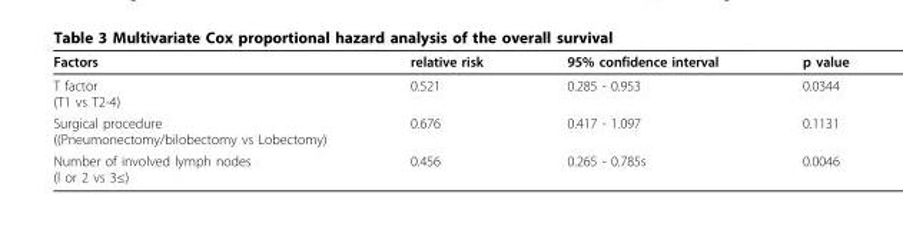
<table><thead><tr><td>Factors</td><td>relative risk</td><td>95% confidence interval</td><td>p value</td></tr></thead><tbody><tr><td>T factor (T1 vs T2-4)</td><td>0.521</td><td>0.285 - 0.953</td><td>0.0344</td></tr><tr><td>Surgical procedure ((Pneumonectomy/bilobectomy vs Lobectomy)</td><td>0.676</td><td>0.417 - 1.097</td><td>0.1131</td></tr><tr><td>Number of involved lymph nodes (l or 2 vs 3≤)</td><td>0.456</td><td>0.265 - 0.785s</td><td>0.0046</td></tr></tbody></table>